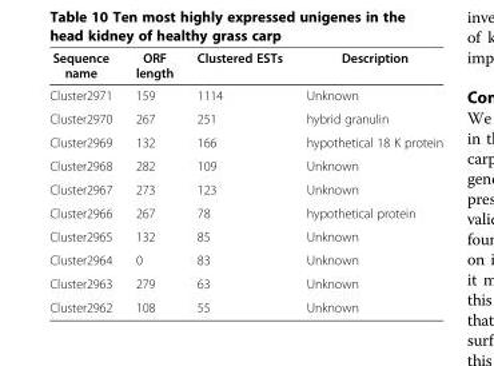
<table><thead><tr><td>Sequence name</td><td>ORF length</td><td>Clustered ESTs</td><td>Description</td></tr></thead><tbody><tr><td>Cluster2971</td><td>159</td><td>1114</td><td>Unknown</td></tr><tr><td>Cluster2970</td><td>267</td><td>251</td><td>hybrid granulin</td></tr><tr><td>Cluster2969</td><td>132</td><td>166</td><td>hypothetical 18 K protein</td></tr><tr><td>Cluster2968</td><td>282</td><td>109</td><td>Unknown</td></tr><tr><td>Cluster2967</td><td>273</td><td>123</td><td>Unknown</td></tr><tr><td>Cluster2966</td><td>267</td><td>78</td><td>hypothetical protein</td></tr><tr><td>Cluster2965</td><td>132</td><td>85</td><td>Unknown</td></tr><tr><td>Cluster2964</td><td>0</td><td>83</td><td>Unknown</td></tr><tr><td>Cluster2963</td><td>279</td><td>63</td><td>Unknown</td></tr><tr><td>Cluster2962</td><td>108</td><td>55</td><td>Unknown</td></tr></tbody></table>